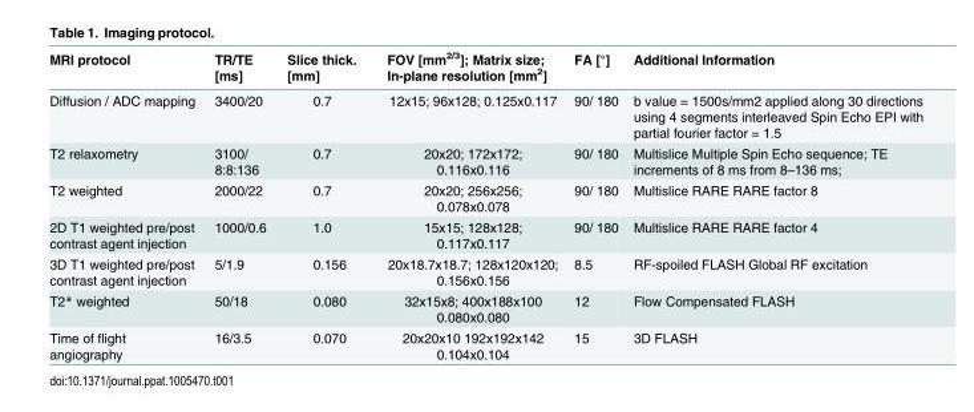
<table><thead><tr><td>MRI protocol</td><td>TR/TE [ms]</td><td>Slice thick. [mm]</td><td>FOV [mm<sup>2/3</sup>]; Matrix size; In-plane resolution [mm<sup>2</sup>]</td><td>FA [°]</td><td>Additional Information</td></tr></thead><tbody><tr><td>Diffusion / ADC mapping</td><td>3400/20</td><td>0.7</td><td>12x15; 96x128; 0.125x0.117</td><td>90/ 180</td><td>b value = 1500s/mm2 applied along 30 directions using 4 segments interleaved Spin Echo EPI with partial fourier factor = 1.5</td></tr><tr><td>T2 relaxometry</td><td>3100/ 8:8:136</td><td>0.7</td><td>20x20; 172x172; 0.116x0.116</td><td>90/ 180</td><td>Multislice Multiple Spin Echo sequence; TE increments of 8 ms from 8–136 ms;</td></tr><tr><td>T2 weighted</td><td>2000/22</td><td>0.7</td><td>20x20; 256x256; 0.078x0.078</td><td>90/ 180</td><td>Multislice RARE RARE factor 8</td></tr><tr><td>2D T1 weighted pre/post contrast agent injection</td><td>1000/0.6</td><td>1.0</td><td>15x15; 128x128; 0.117x0.117</td><td>90/ 180</td><td>Multislice RARE RARE factor 4</td></tr><tr><td>3D T1 weighted pre/post contrast agent injection</td><td>5/1.9</td><td>0.156</td><td>20x18.7x18.7; 128x120x120; 0.156x0.156</td><td>8.5</td><td>RF-spoiled FLASH Global RF excitation</td></tr><tr><td>T2* weighted</td><td>50/18</td><td>0.080</td><td>32x15x8; 400x188x100 0.080x0.080</td><td>12</td><td>Flow Compensated FLASH</td></tr><tr><td>Time of flight angiography</td><td>16/3.5</td><td>0.070</td><td>20x20x10 192x192x142 0.104x0.104</td><td>15</td><td>3D FLASH</td></tr></tbody></table>